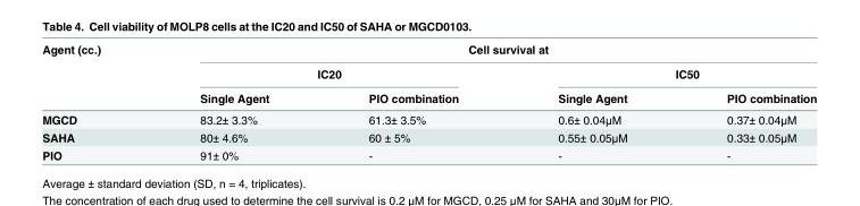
<table><thead><tr><td rowspan="3">Agent (cc.)</td><td colspan="4">Cell survival at</td></tr><tr><td colspan="2">IC20</td><td colspan="2">IC50</td></tr><tr><td>Single Agent</td><td>PIO combination</td><td>Single Agent</td><td>PIO combination</td></tr></thead><tbody><tr><td>MGCD</td><td>83.2± 3.3%</td><td>61.3± 3.5%</td><td>0.6± 0.04μM</td><td>0.37± 0.04μM</td></tr><tr><td>SAHA</td><td>80± 4.6%</td><td>60 ± 5%</td><td>0.55± 0.05μM</td><td>0.33± 0.05μM</td></tr><tr><td>PIO</td><td>91± 0%</td><td>-</td><td>-</td><td>-</td></tr></tbody></table>